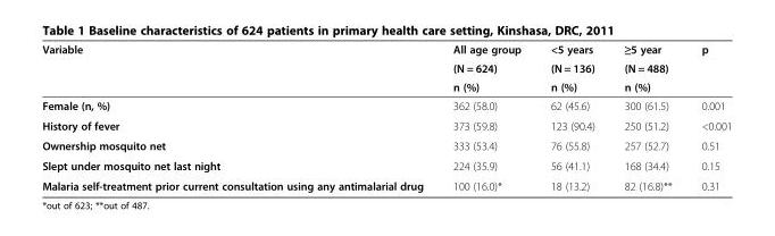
<table><thead><tr><td rowspan="3">Variable</td><td rowspan="3">All age group (N = 624) n (%)</td><td rowspan="3">&lt;5 years (N = 136) n (%)</td><td rowspan="3">≥5 year (N = 488) n (%)</td><td rowspan="3">p</td></tr><tr></tr><tr></tr></thead><tbody><tr><td>Female (n, %)</td><td>362 (58.0)</td><td>62 (45.6)</td><td>300 (61.5)</td><td>0.001</td></tr><tr><td>History of fever</td><td>373 (59.8)</td><td>123 (90.4)</td><td>250 (51.2)</td><td>&lt;0.001</td></tr><tr><td>Ownership mosquito net</td><td>333 (53.4)</td><td>76 (55.8)</td><td>257 (52.7)</td><td>0.51</td></tr><tr><td>Slept under mosquito net last night</td><td>224 (35.9)</td><td>56 (41.1)</td><td>168 (34.4)</td><td>0.15</td></tr><tr><td>Malaria self-treatment prior current consultation using any antimalarial drug</td><td>100 (16.0)*</td><td>18 (13.2)</td><td>82 (16.8)**</td><td>0.31</td></tr></tbody></table>